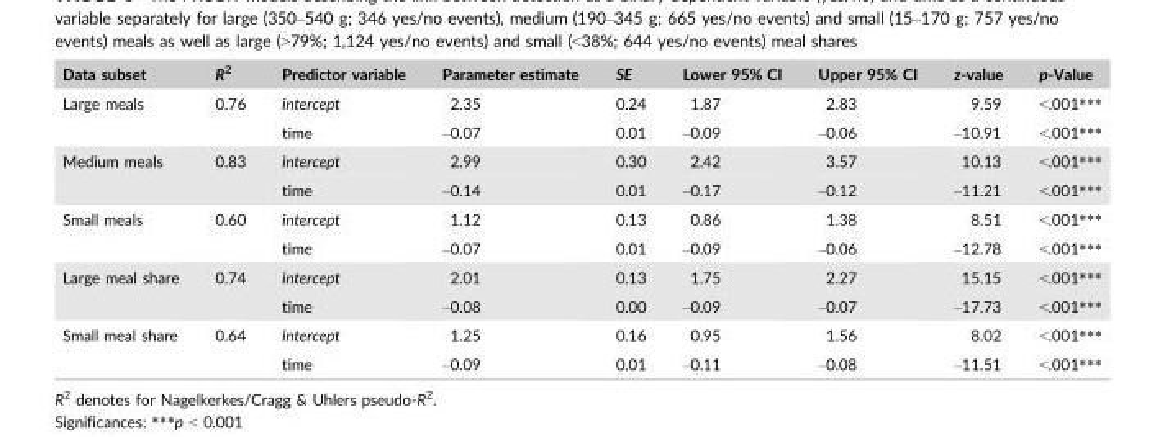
<table><thead><tr><td>Data subset</td><td>R<sup>2</sup></td><td>Predictor variable</td><td>Parameter estimate</td><td>SE</td><td>Lower 95% CI</td><td>Upper 95% CI</td><td>z-value</td><td>p-Value</td></tr></thead><tbody><tr><td rowspan="2">Large meals</td><td rowspan="2">0.76</td><td>intercept</td><td>2.35</td><td>0.24</td><td>1.87</td><td>2.83</td><td>9.59</td><td>&lt;.001***</td></tr><tr><td>time</td><td>–0.07</td><td>0.01</td><td>–0.09</td><td>–0.06</td><td>–10.91</td><td>&lt;.001***</td></tr><tr><td rowspan="2">Medium meals</td><td rowspan="2">0.83</td><td>intercept</td><td>2.99</td><td>0.30</td><td>2.42</td><td>3.57</td><td>10.13</td><td>&lt;.001***</td></tr><tr><td>time</td><td>–0.14</td><td>0.01</td><td>–0.17</td><td>–0.12</td><td>–11.21</td><td>&lt;.001***</td></tr><tr><td rowspan="2">Small meals</td><td rowspan="2">0.60</td><td>intercept</td><td>1.12</td><td>0.13</td><td>0.86</td><td>1.38</td><td>8.51</td><td>&lt;.001***</td></tr><tr><td>time</td><td>–0.07</td><td>0.01</td><td>–0.09</td><td>–0.06</td><td>–12.78</td><td>&lt;.001***</td></tr><tr><td rowspan="2">Large meal share</td><td rowspan="2">0.74</td><td>intercept</td><td>2.01</td><td>0.13</td><td>1.75</td><td>2.27</td><td>15.15</td><td>&lt;.001***</td></tr><tr><td>time</td><td>–0.08</td><td>0.00</td><td>–0.09</td><td>–0.07</td><td>–17.73</td><td>&lt;.001***</td></tr><tr><td rowspan="2">Small meal share</td><td rowspan="2">0.64</td><td>intercept</td><td>1.25</td><td>0.16</td><td>0.95</td><td>1.56</td><td>8.02</td><td>&lt;.001***</td></tr><tr><td>time</td><td>–0.09</td><td>0.01</td><td>–0.11</td><td>–0.08</td><td>–11.51</td><td>&lt;.001***</td></tr></tbody></table>